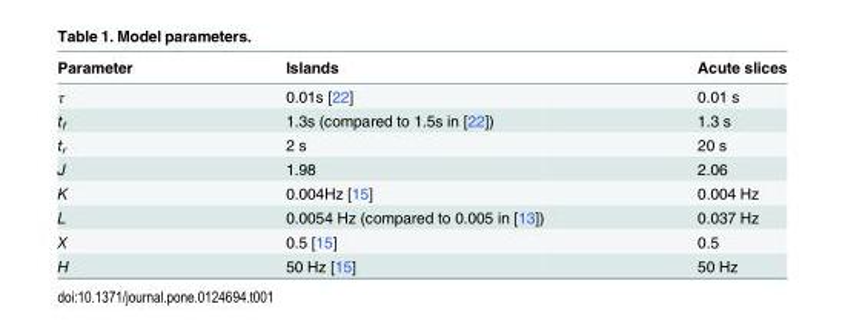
<table><thead><tr><td>Parameter</td><td>Islands</td><td>Acute slices</td></tr></thead><tbody><tr><td>τ</td><td>0.01s [22]</td><td>0.01 s</td></tr><tr><td>t<sub>f</sub></td><td>1.3s (compared to 1.5s in [22])</td><td>1.3 s</td></tr><tr><td>t<sub>r</sub></td><td>2 s</td><td>20 s</td></tr><tr><td>J</td><td>1.98</td><td>2.06</td></tr><tr><td>K</td><td>0.004Hz [15]</td><td>0.004 Hz</td></tr><tr><td>L</td><td>0.0054 Hz (compared to 0.005 in [13])</td><td>0.037 Hz</td></tr><tr><td>X</td><td>0.5 [15]</td><td>0.5</td></tr><tr><td>H</td><td>50 Hz [15]</td><td>50 Hz</td></tr></tbody></table>